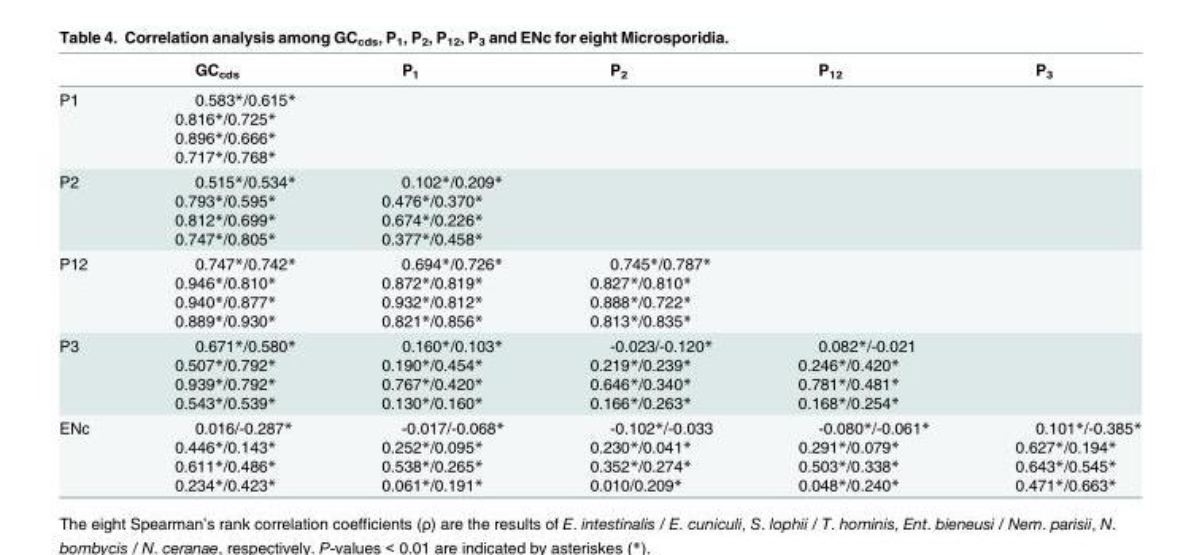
<table><thead><tr><td></td><td>GC<sub>cds</sub></td><td>P<sub>1</sub></td><td>P<sub>2</sub></td><td>P<sub>12</sub></td><td>P<sub>3</sub></td></tr></thead><tbody><tr><td>P1</td><td>0.583*/0.615* 0.816*/0.725* 0.896*/0.666* 0.717*/0.768*</td><td></td><td></td><td></td><td></td></tr><tr><td>P2</td><td>0.515*/0.534* 0.793*/0.595* 0.812*/0.699* 0.747*/0.805*</td><td>0.102*/0.209* 0.476*/0.370* 0.674*/0.226* 0.377*/0.458*</td><td></td><td></td><td></td></tr><tr><td>P12</td><td>0.747*/0.742* 0.946*/0.810* 0.940*/0.877* 0.889*/0.930*</td><td>0.694*/0.726* 0.872*/0.819* 0.932*/0.812* 0.821*/0.856*</td><td>0.745*/0.787* 0.827*/0.810* 0.888*/0.722* 0.813*/0.835*</td><td></td><td></td></tr><tr><td>P3</td><td>0.671*/0.580* 0.507*/0.792* 0.939*/0.792* 0.543*/0.539*</td><td>0.160*/0.103* 0.190*/0.454* 0.767*/0.420* 0.130*/0.160*</td><td>-0.023/-0.120* 0.219*/0.239* 0.646*/0.340* 0.166*/0.263*</td><td>0.082*/-0.021 0.246*/0.420* 0.781*/0.481* 0.168*/0.254*</td><td></td></tr><tr><td>ENc</td><td>0.016/-0.287* 0.446*/0.143* 0.611*/0.486* 0.234*/0.423*</td><td>-0.017/-0.068* 0.252*/0.095* 0.538*/0.265* 0.061*/0.191*</td><td>-0.102*/-0.033 0.230*/0.041* 0.352*/0.274* 0.010/0.209*</td><td>-0.080*/-0.061* 0.291*/0.079* 0.503*/0.338* 0.048*/0.240*</td><td>0.101*/-0.385* 0.627*/0.194* 0.643*/0.545* 0.471*/0.663*</td></tr></tbody></table>